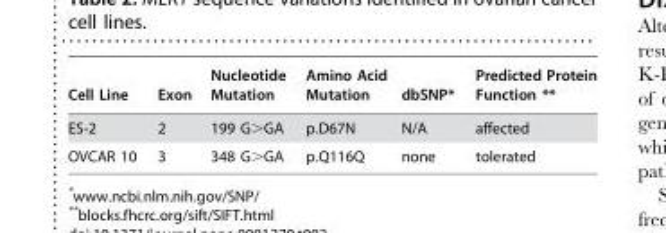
<table><thead><tr><td>Cell Line</td><td>Exon</td><td>Nucleotide Mutation</td><td>Amino Acid Mutation</td><td>dbSNP*</td><td>Predicted Protein Function **</td></tr></thead><tbody><tr><td>ES-2</td><td>2</td><td>199 G&gt;GA</td><td>p.D67N</td><td>N/A</td><td>affected</td></tr><tr><td>OVCAR 10</td><td>3</td><td>348 G&gt;GA</td><td>p.Q116Q</td><td>none</td><td>tolerated</td></tr></tbody></table>